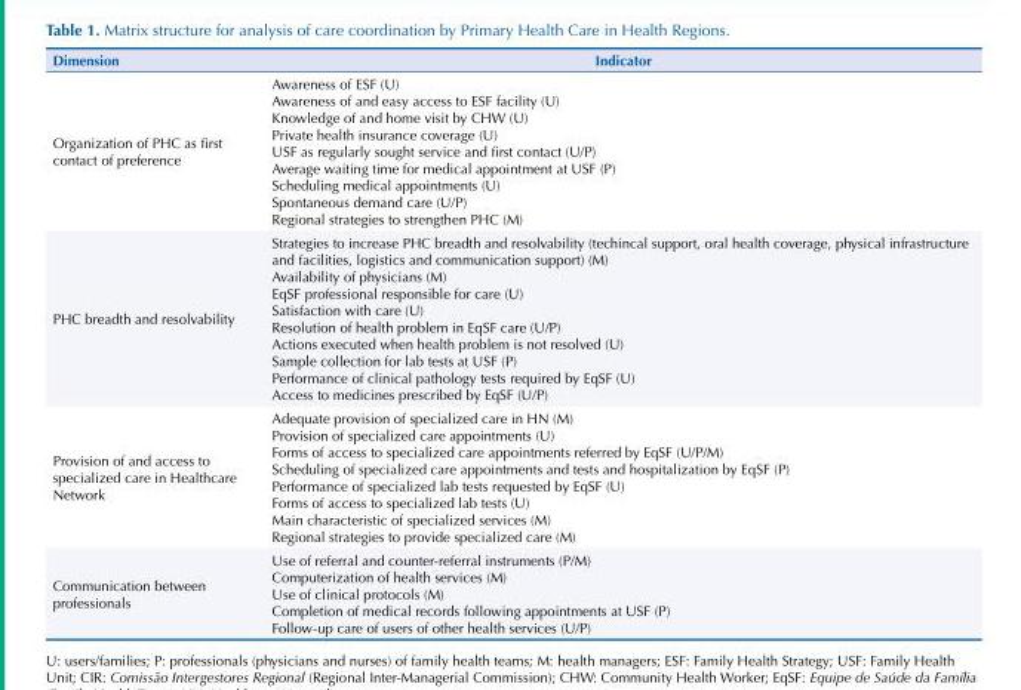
<table><thead><tr><td>Dimension</td><td>Indicator</td></tr></thead><tbody><tr><td>Organization of PHC as first contact of preference</td><td>Awareness of ESF (U) Awareness of and easy access to ESF facility (U) Knowledge of and home visit by CHW (U) Private health insurance coverage (U) USF as regularly sought service and first contact (U/P) Average waiting time for medical appointment at USF (P) Scheduling medical appointments (U) Spontaneous demand care (U/P) Regional strategies to strengthen PHC (M)</td></tr><tr><td>PHC breadth and resolvability</td><td>Strategies to increase PHC breadth and resolvability (techincal support, oral health coverage, physical infrastructure and facilities, logistics and communication support) (M) Availability of physicians (M) EqSF professional responsible for care (U) Satisfaction with care (U) Resolution of health problem in EqSF care (U/P) Actions executed when health problem is not resolved (U) Sample collection for lab tests at USF (P) Performance of clinical pathology tests required by EqSF (U) Access to medicines prescribed by EqSF (U/P)</td></tr><tr><td>Provision of and access to specialized care in Healthcare Network</td><td>Adequate provision of specialized care in HN (M) Provision of specialized care appointments (U) Forms of access to specialized care appointments referred by EqSF (U/P/M) Scheduling of specialized care appointments and tests and hospitalization by EqSF (P) Performance of specialized lab tests requested by EqSF (U) Forms of access to specialized lab tests (U) Main characteristic of specialized services (M) Regional strategies to provide specialized care (M)</td></tr><tr><td>Communication between professionals</td><td>Use of referral and counter-referral instruments (P/M) Computerization of health services (M) Use of clinical protocols (M) Completion of medical records following appointments at USF (P) Follow-up care of users of other health services (U/P)</td></tr></tbody></table>